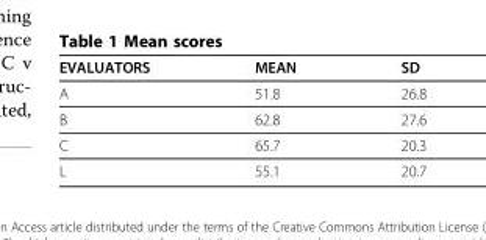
<table><thead><tr><td>EVALUATORS</td><td>MEAN</td><td>SD</td></tr></thead><tbody><tr><td>A</td><td>51.8</td><td>26.8</td></tr><tr><td>B</td><td>62.8</td><td>27.6</td></tr><tr><td>C</td><td>65.7</td><td>20.3</td></tr><tr><td>L</td><td>55.1</td><td>20.7</td></tr></tbody></table>